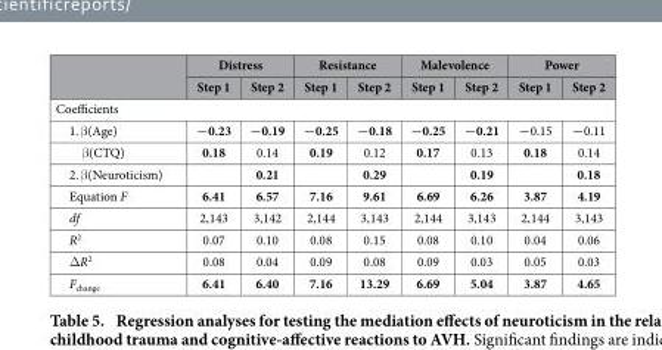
<table><thead><tr><td rowspan="2"></td><td colspan="2">Distress</td><td colspan="2">Resistance</td><td colspan="2">Malevolence</td><td colspan="2">Power</td></tr><tr><td>Step 1</td><td>Step 2</td><td>Step 1</td><td>Step 2</td><td>Step 1</td><td>Step 2</td><td>Step 1</td><td>Step 2</td></tr></thead><tbody><tr><td colspan="9">Coefficients</td></tr><tr><td>1. β (Age)</td><td>−0.23</td><td>−0.19</td><td>−0.25</td><td>−0.18</td><td>−0.25</td><td>−0.21</td><td>−0.15</td><td>−0.11</td></tr><tr><td>β (CTQ)</td><td>0.18</td><td>0.14</td><td>0.19</td><td>0.12</td><td>0.17</td><td>0.13</td><td>0.18</td><td>0.14</td></tr><tr><td>2. β (Neuroticism)</td><td></td><td>0.21</td><td></td><td>0.29</td><td></td><td>0.19</td><td></td><td>0.18</td></tr><tr><td>Equation F</td><td>6.41</td><td>6.57</td><td>7.16</td><td>9.61</td><td>6.69</td><td>6.26</td><td>3.87</td><td>4.19</td></tr><tr><td>df</td><td>2,143</td><td>3,142</td><td>2,144</td><td>3,143</td><td>2,144</td><td>3,143</td><td>2,144</td><td>3,143</td></tr><tr><td>R<sup>2</sup></td><td>0.07</td><td>0.10</td><td>0.08</td><td>0.15</td><td>0.08</td><td>0.10</td><td>0.04</td><td>0.06</td></tr><tr><td>Δ R<sup>2</sup></td><td>0.08</td><td>0.04</td><td>0.09</td><td>0.08</td><td>0.09</td><td>0.03</td><td>0.05</td><td>0.03</td></tr><tr><td>F<sub>change</sub></td><td>6.41</td><td>6.40</td><td>7.16</td><td>13.29</td><td>6.69</td><td>5.04</td><td>3.87</td><td>4.65</td></tr></tbody></table>